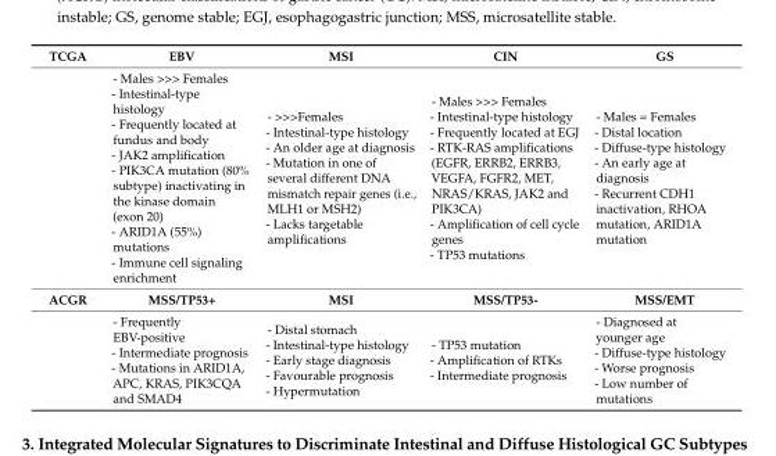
<table><tbody><tr><td rowspan="2">TCGA</td><td>EBV</td><td>MSI</td><td>CIN</td><td>GS</td></tr><tr><td>- Males &gt;&gt;&gt; Females - Intestinal-type histology - Frequently located at fundus and body - JAK2 amplification - PIK3CA mutation (80% subtype) inactivating in the kinase domain (exon 20) - ARID1A (55%) mutations - Immune cell signaling enrichment</td><td>- &gt;&gt;&gt;Females - Intestinal-type histology - An older age at diagnosis - Mutation in one of several different DNA mismatch repair genes (i.e., MLH1 or MSH2) - Lacks targetable amplifications</td><td>- Males &gt;&gt;&gt; Females - Intestinal-type histology - Frequently located at EGJ - RTK-RAS amplifications (EGFR, ERRB2, ERRB3, VEGFA, FGFR2, MET, NRAS/KRAS, JAK2 and PIK3CA) - Amplification of cell cycle genes - TP53 mutations</td><td>- Males = Females - Distal location - Diffuse-type histology - An early age at diagnosis - Recurrent CDH1 inactivation, RHOA mutation, ARID1A mutation</td></tr><tr><td rowspan="2">ACGR</td><td>MSS/TP53+</td><td>MSI</td><td>MSS/TP53-</td><td>MSS/EMT</td></tr><tr><td>- Frequently EBV-positive - Intermediate prognosis - Mutations in ARID1A, APC, KRAS, PIK3CQA and SMAD4</td><td>- Distal stomach - Intestinal-type histology - Early stage diagnosis - Favourable prognosis - Hypermutation</td><td>- TP53 mutation - Amplification of RTKs - Intermediate prognosis</td><td>- Diagnosed at younger age - Diffuse-type histology - Worse prognosis - Low number of mutations</td></tr></tbody></table>